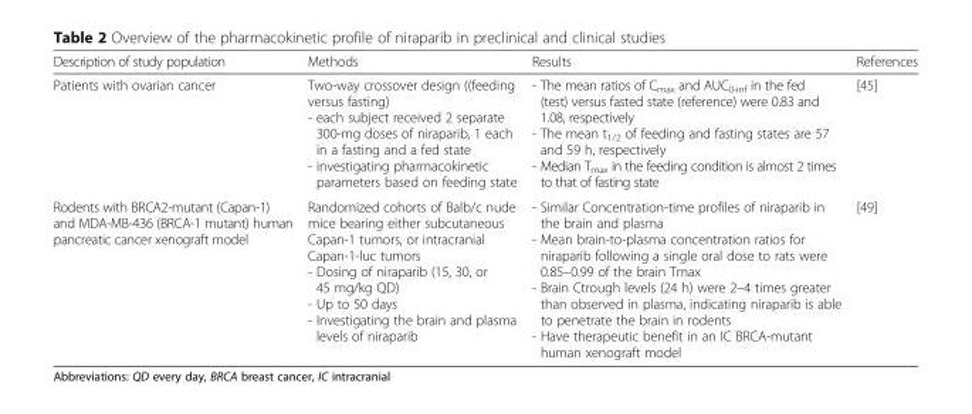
<table><thead><tr><td>Description of study population</td><td>Methods</td><td>Results</td><td>References</td></tr></thead><tbody><tr><td>Patients with ovarian cancer</td><td>Two-way crossover design ((feeding versus fasting) - each subject received 2 separate 300-mg doses of niraparib, 1 each in a fasting and a fed state - investigating pharmacokinetic parameters based on feeding state</td><td>- The mean ratios of C<sub>max</sub> and AUC<sub>0-inf</sub> in the fed (test) versus fasted state (reference) were 0.83 and 1.08, respectively - The mean t<sub>1/2</sub> of feeding and fasting states are 57 and 59 h, respectively - Median T<sub>max</sub> in the feeding condition is almost 2 times to that of fasting state</td><td>[45]</td></tr><tr><td>Rodents with BRCA2-mutant (Capan-1) and MDA-MB-436 (BRCA-1 mutant) human pancreatic cancer xenograft model</td><td>Randomized cohorts of Balb/c nude mice bearing either subcutaneous Capan-1 tumors, or intracranial Capan-1-luc tumors - Dosing of niraparib (15, 30, or 45 mg/kg QD) - Up to 50 days - Investigating the brain and plasma levels of niraparib</td><td>- Similar Concentration-time profiles of niraparib in the brain and plasma - Mean brain-to-plasma concentration ratios for niraparib following a single oral dose to rats were 0.85–0.99 of the brain Tmax - Brain Ctrough levels (24 h) were 2–4 times greater than observed in plasma, indicating niraparib is able to penetrate the brain in rodents - Have therapeutic benefit in an IC BRCA-mutant human xenograft model</td><td>[49]</td></tr></tbody></table>